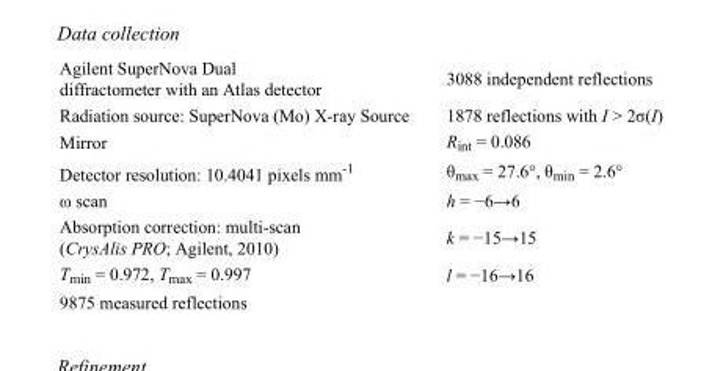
<table><tbody><tr><td>Agilent SuperNova Dual diffractometer with an Atlas detector</td><td>3088 independent reflections</td></tr><tr><td>Radiation source: SuperNova (Mo) X-ray Source</td><td>1878 reflections with I &gt; 2σ(I)</td></tr><tr><td>Mirror</td><td>R<sub>int</sub> = 0.086</td></tr><tr><td>Detector resolution: 10.4041 pixels mm<sup>-1</sup></td><td>θ<sub>max</sub> = 27.6°, θ<sub>min</sub> = 2.6°</td></tr><tr><td>ω scan</td><td>h = −6→6</td></tr><tr><td>Absorption correction: multi-scan (CrysAlis PRO; Agilent, 2010)</td><td>k = −15→15</td></tr><tr><td>T<sub>min</sub> = 0.972, T<sub>max</sub> = 0.997</td><td>l = −16→16</td></tr><tr><td>9875 measured reflections</td><td></td></tr></tbody></table>